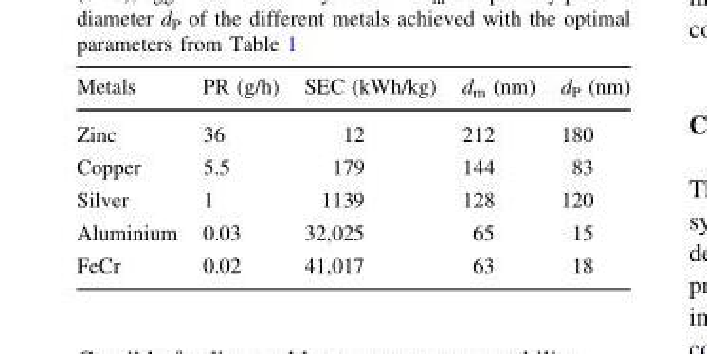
<table><thead><tr><td>Metals</td><td>PR (g/h)</td><td>SEC (kWh/kg)</td><td>d<sub>m</sub> (nm)</td><td>d<sub>P</sub> (nm)</td></tr></thead><tbody><tr><td>Zinc</td><td>36</td><td>12</td><td>212</td><td>180</td></tr><tr><td>Copper</td><td>5.5</td><td>179</td><td>144</td><td>83</td></tr><tr><td>Silver</td><td>1</td><td>1139</td><td>128</td><td>120</td></tr><tr><td>Aluminium</td><td>0.03</td><td>32,025</td><td>65</td><td>15</td></tr><tr><td>FeCr</td><td>0.02</td><td>41,017</td><td>63</td><td>18</td></tr></tbody></table>